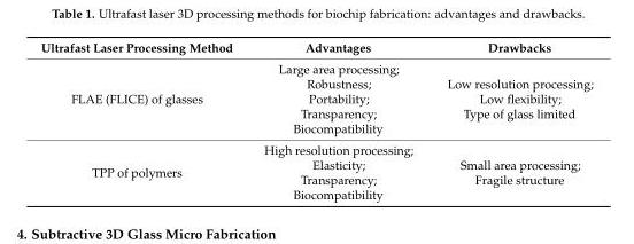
<table><thead><tr><td>Ultrafast Laser Processing Method</td><td>Advantages</td><td>Drawbacks</td></tr></thead><tbody><tr><td>FLAE (FLICE) of glasses</td><td>Large area processing; Robustness; Portability; Transparency; Biocompatibility</td><td>Low resolution processing; Low flexibility; Type of glass limited</td></tr><tr><td>TPP of polymers</td><td>High resolution processing; Elasticity; Transparency; Biocompatibility</td><td>Small area processing; Fragile structure</td></tr></tbody></table>